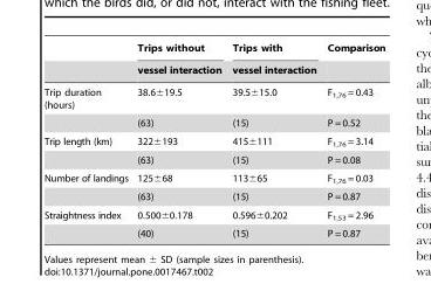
<table><thead><tr><td rowspan="2"></td><td rowspan="2">Trips without vessel interaction</td><td rowspan="2">Trips with vessel interaction</td><td rowspan="2">Comparison</td></tr><tr></tr></thead><tbody><tr><td rowspan="2">Trip duration (hours)</td><td>38.6±19.5</td><td>39.5±15.0</td><td>F<sub>1,76</sub> = 0.43</td></tr><tr><td>(63)</td><td>(15)</td><td>P = 0.52</td></tr><tr><td rowspan="2">Trip length (km)</td><td>322±193</td><td>415±111</td><td>F<sub>1,76</sub> = 3.14</td></tr><tr><td>(63)</td><td>(15)</td><td>P = 0.08</td></tr><tr><td rowspan="2">Number of landings</td><td>125±68</td><td>113±65</td><td>F<sub>1,76</sub> = 0.03</td></tr><tr><td>(63)</td><td>(15)</td><td>P = 0.87</td></tr><tr><td rowspan="2">Straightness index</td><td>0.500±0.178</td><td>0.596±0.202</td><td>F<sub>1,53</sub> = 2.96</td></tr><tr><td>(40)</td><td>(15)</td><td>P = 0.87</td></tr></tbody></table>